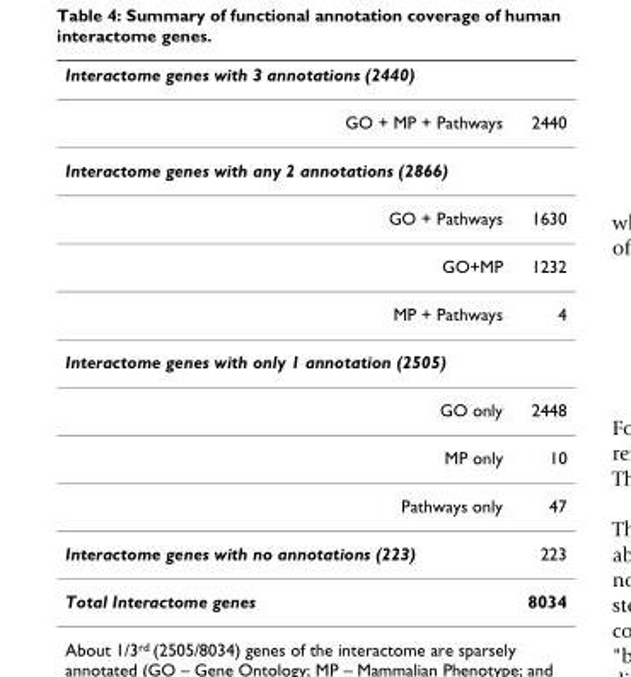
<table><thead><tr><td>Interactome genes with 3 annotations (2440)</td><td></td></tr></thead><tbody><tr><td>GO + MP + Pathways</td><td>2440</td></tr><tr><td colspan="2">Interactome genes with any 2 annotations (2866)</td></tr><tr><td>GO + Pathways</td><td>1630</td></tr><tr><td>GO+MP</td><td>1232</td></tr><tr><td>MP + Pathways</td><td>4</td></tr><tr><td colspan="2">Interactome genes with only 1 annotation (2505)</td></tr><tr><td>GO only</td><td>2448</td></tr><tr><td>MP only</td><td>10</td></tr><tr><td>Pathways only</td><td>47</td></tr><tr><td>Interactome genes with no annotations (223)</td><td>223</td></tr><tr><td>Total Interactome genes</td><td>8034</td></tr></tbody></table>